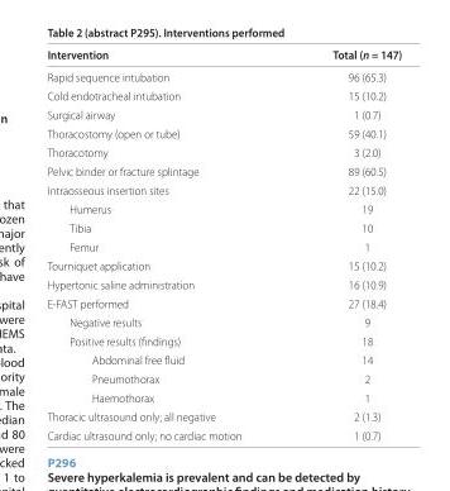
<table><thead><tr><td>Intervention</td><td>Total (n = 147)</td></tr></thead><tbody><tr><td>Rapid sequence intubation</td><td>96 (65.3)</td></tr><tr><td>Cold endotracheal intubation</td><td>15 (10.2)</td></tr><tr><td>Surgical airway</td><td>1 (0.7)</td></tr><tr><td>Thoracostomy (open or tube)</td><td>59 (40.1)</td></tr><tr><td>Thoracotomy</td><td>3 (2.0)</td></tr><tr><td>Pelvic binder or fracture splintage</td><td>89 (60.5)</td></tr><tr><td>Intraosseous insertion sites</td><td>22 (15.0)</td></tr><tr><td>Humerus</td><td>19</td></tr><tr><td>Tibia</td><td>10</td></tr><tr><td>Femur</td><td>1</td></tr><tr><td>Tourniquet application</td><td>15 (10.2)</td></tr><tr><td>Hypertonic saline administration</td><td>16 (10.9)</td></tr><tr><td>E-FAST performed</td><td>27 (18.4)</td></tr><tr><td>Negative results</td><td>9</td></tr><tr><td>Positive results (fi ndings)</td><td>18</td></tr><tr><td>Abdominal free fl uid</td><td>14</td></tr><tr><td>Pneumothorax</td><td>2</td></tr><tr><td>Haemothorax</td><td>1</td></tr><tr><td>Thoracic ultrasound only; all negative</td><td>2 (1.3)</td></tr><tr><td>Cardiac ultrasound only; no cardiac motion</td><td>1 (0.7)</td></tr></tbody></table>